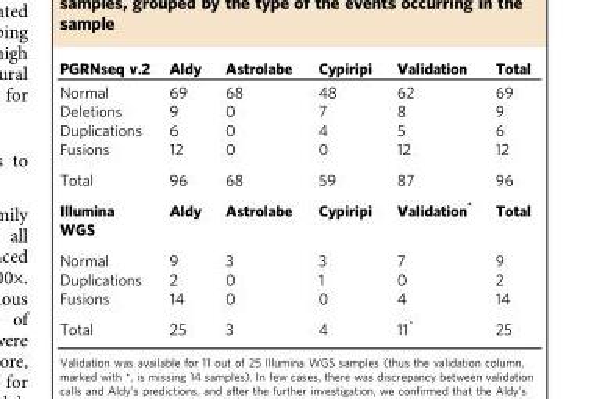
<table><thead><tr><td>PGRNseq v.2</td><td>Aldy</td><td>Astrolabe</td><td>Cypiripi</td><td>Validation</td><td>Total</td></tr></thead><tbody><tr><td>Normal</td><td>69</td><td>68</td><td>48</td><td>62</td><td>69</td></tr><tr><td>Deletions</td><td>9</td><td>0</td><td>7</td><td>8</td><td>9</td></tr><tr><td>Duplications</td><td>6</td><td>0</td><td>4</td><td>5</td><td>6</td></tr><tr><td>Fusions</td><td>12</td><td>0</td><td>0</td><td>12</td><td>12</td></tr><tr><td>Total</td><td>96</td><td>68</td><td>59</td><td>87</td><td>96</td></tr><tr><td>Illumina WGS</td><td>Aldy</td><td>Astrolabe</td><td>Cypiripi</td><td>Validation*</td><td>Total</td></tr><tr><td>Normal</td><td>9</td><td>3</td><td>3</td><td>7</td><td>9</td></tr><tr><td>Duplications</td><td>2</td><td>0</td><td>1</td><td>0</td><td>2</td></tr><tr><td>Fusions</td><td>14</td><td>0</td><td>0</td><td>4</td><td>14</td></tr><tr><td>Total</td><td>25</td><td>3</td><td>4</td><td>11*</td><td>25</td></tr></tbody></table>